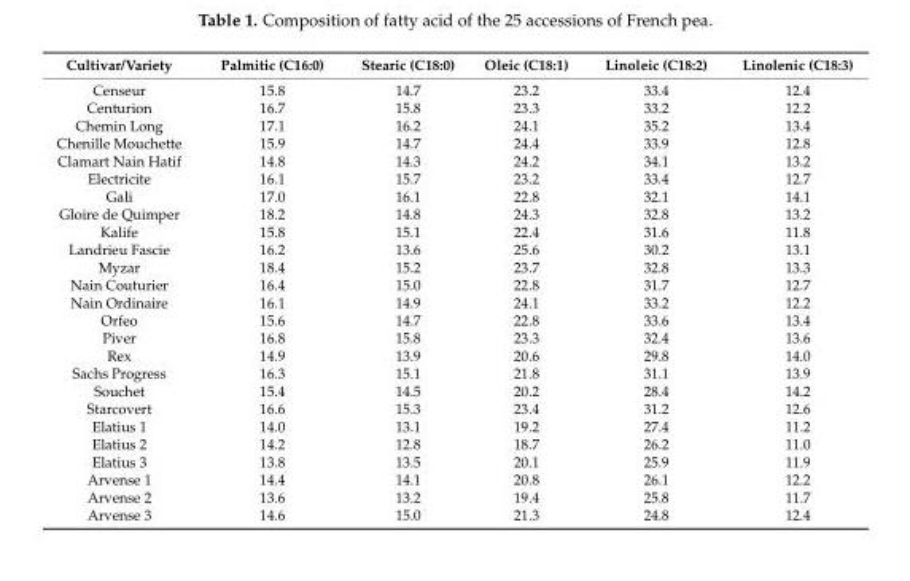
<table><thead><tr><td>Cultivar/Variety</td><td>Palmitic (C16:0)</td><td>Stearic (C18:0)</td><td>Oleic (C18:1)</td><td>Linoleic (C18:2)</td><td>Linolenic (C18:3)</td></tr></thead><tbody><tr><td>Censeur</td><td>15.8</td><td>14.7</td><td>23.2</td><td>33.4</td><td>12.4</td></tr><tr><td>Centurion</td><td>16.7</td><td>15.8</td><td>23.3</td><td>33.2</td><td>12.2</td></tr><tr><td>Chemin Long</td><td>17.1</td><td>16.2</td><td>24.1</td><td>35.2</td><td>13.4</td></tr><tr><td>Chenille Mouchette</td><td>15.9</td><td>14.7</td><td>24.4</td><td>33.9</td><td>12.8</td></tr><tr><td>Clamart Nain Hatif</td><td>14.8</td><td>14.3</td><td>24.2</td><td>34.1</td><td>13.2</td></tr><tr><td>Electricite</td><td>16.1</td><td>15.7</td><td>23.2</td><td>33.4</td><td>12.7</td></tr><tr><td>Gali</td><td>17.0</td><td>16.1</td><td>22.8</td><td>32.1</td><td>14.1</td></tr><tr><td>Gloire de Quimper</td><td>18.2</td><td>14.8</td><td>24.3</td><td>32.8</td><td>13.2</td></tr><tr><td>Kalife</td><td>15.8</td><td>15.1</td><td>22.4</td><td>31.6</td><td>11.8</td></tr><tr><td>Landrieu Fascie</td><td>16.2</td><td>13.6</td><td>25.6</td><td>30.2</td><td>13.1</td></tr><tr><td>Myzar</td><td>18.4</td><td>15.2</td><td>23.7</td><td>32.8</td><td>13.3</td></tr><tr><td>Nain Couturier</td><td>16.4</td><td>15.0</td><td>22.8</td><td>31.7</td><td>12.7</td></tr><tr><td>Nain Ordinaire</td><td>16.1</td><td>14.9</td><td>24.1</td><td>33.2</td><td>12.2</td></tr><tr><td>Orfeo</td><td>15.6</td><td>14.7</td><td>22.8</td><td>33.6</td><td>13.4</td></tr><tr><td>Piver</td><td>16.8</td><td>15.8</td><td>23.3</td><td>32.4</td><td>13.6</td></tr><tr><td>Rex</td><td>14.9</td><td>13.9</td><td>20.6</td><td>29.8</td><td>14.0</td></tr><tr><td>Sachs Progress</td><td>16.3</td><td>15.1</td><td>21.8</td><td>31.1</td><td>13.9</td></tr><tr><td>Souchet</td><td>15.4</td><td>14.5</td><td>20.2</td><td>28.4</td><td>14.2</td></tr><tr><td>Starcovert</td><td>16.6</td><td>15.3</td><td>23.4</td><td>31.2</td><td>12.6</td></tr><tr><td>Elatius 1</td><td>14.0</td><td>13.1</td><td>19.2</td><td>27.4</td><td>11.2</td></tr><tr><td>Elatius 2</td><td>14.2</td><td>12.8</td><td>18.7</td><td>26.2</td><td>11.0</td></tr><tr><td>Elatius 3</td><td>13.8</td><td>13.5</td><td>20.1</td><td>25.9</td><td>11.9</td></tr><tr><td>Arvense 1</td><td>14.4</td><td>14.1</td><td>20.8</td><td>26.1</td><td>12.2</td></tr><tr><td>Arvense 2</td><td>13.6</td><td>13.2</td><td>19.4</td><td>25.8</td><td>11.7</td></tr><tr><td>Arvense 3</td><td>14.6</td><td>15.0</td><td>21.3</td><td>24.8</td><td>12.4</td></tr></tbody></table>